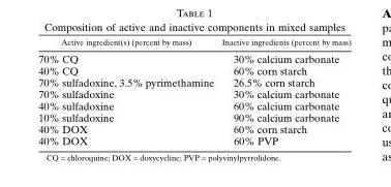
<table><thead><tr><td>Active ingredient(s) (percent by mass)</td><td>Inactive ingredients (percent by mass)</td></tr></thead><tbody><tr><td>70% CQ</td><td>30% calcium carbonate</td></tr><tr><td>40% CQ</td><td>60% corn starch</td></tr><tr><td>70% sulfadoxine, 3.5% pyrimethamine</td><td>26.5% corn starch</td></tr><tr><td>70% sulfadoxine</td><td>30% calcium carbonate</td></tr><tr><td>40% sulfadoxine</td><td>60% calcium carbonate</td></tr><tr><td>10% sulfadoxine</td><td>90% calcium carbonate</td></tr><tr><td>40% DOX</td><td>60% corn starch</td></tr><tr><td>40% DOX</td><td>60% PVP</td></tr></tbody></table>